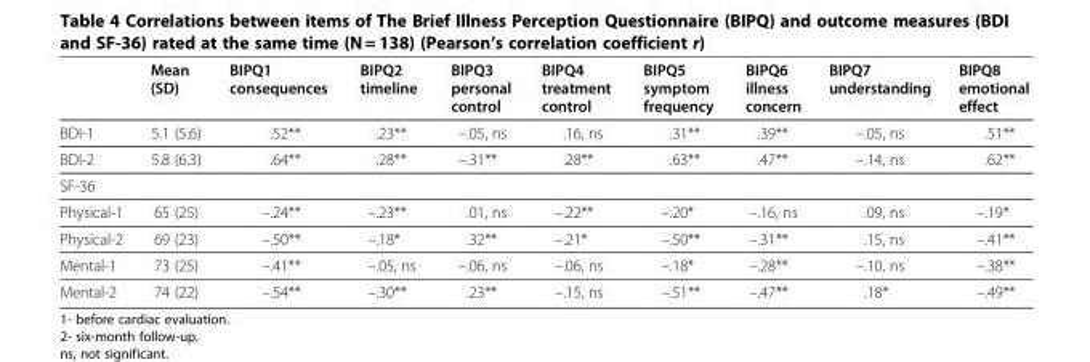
<table><thead><tr><td></td><td>Mean (SD)</td><td>BIPQ1 consequences</td><td>BIPQ2 timeline</td><td>BIPQ3 personal control</td><td>BIPQ4 treatment control</td><td>BIPQ5 symptom frequency</td><td>BIPQ6 illness concern</td><td>BIPQ7 understanding</td><td>BIPQ8 emotional effect</td></tr></thead><tbody><tr><td>BDI-1</td><td>5.1 (5.6)</td><td>.52**</td><td>.23**</td><td>–.05, ns</td><td>.16, ns</td><td>.31**</td><td>.39**</td><td>–.05, ns</td><td>.51**</td></tr><tr><td>BDI-2</td><td>5.8 (6.3)</td><td>.64**</td><td>.28**</td><td>–.31**</td><td>.28**</td><td>.63**</td><td>.47**</td><td>–.14, ns</td><td>.62**</td></tr><tr><td colspan="10">SF-36</td></tr><tr><td>Physical-1</td><td>65 (25)</td><td>–.24**</td><td>–.23**</td><td>.01, ns</td><td>–.22**</td><td>–.20*</td><td>–.16, ns</td><td>.09, ns</td><td>–.19*</td></tr><tr><td>Physical-2</td><td>69 (23)</td><td>–.50**</td><td>–.18*</td><td>.32**</td><td>–.21*</td><td>–.50**</td><td>–.31**</td><td>.15, ns</td><td>–.41**</td></tr><tr><td>Mental-1</td><td>73 (25)</td><td>–.41**</td><td>–.05, ns</td><td>–.06, ns</td><td>–.06, ns</td><td>–.18*</td><td>–.28**</td><td>–.10, ns</td><td>–.38**</td></tr><tr><td>Mental-2</td><td>74 (22)</td><td>–.54**</td><td>–.30**</td><td>.23**</td><td>–.15, ns</td><td>–.51**</td><td>–.47**</td><td>.18*</td><td>–.49**</td></tr></tbody></table>